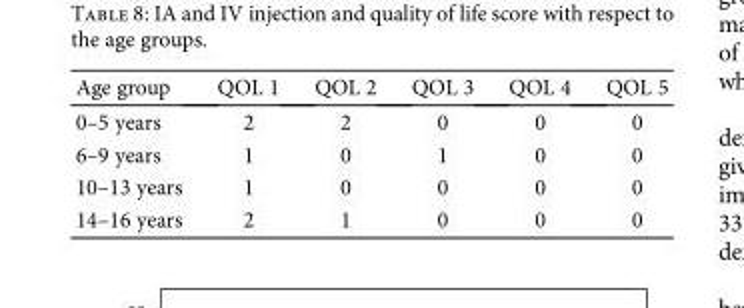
<table><thead><tr><td>Age group</td><td>QOL 1</td><td>QOL 2</td><td>QOL 3</td><td>QOL 4</td><td>QOL 5</td></tr></thead><tbody><tr><td>0–5 years</td><td>2</td><td>2</td><td>0</td><td>0</td><td>0</td></tr><tr><td>6–9 years</td><td>1</td><td>0</td><td>1</td><td>0</td><td>0</td></tr><tr><td>10–13 years</td><td>1</td><td>0</td><td>0</td><td>0</td><td>0</td></tr><tr><td>14–16 years</td><td>2</td><td>1</td><td>0</td><td>0</td><td>0</td></tr></tbody></table>